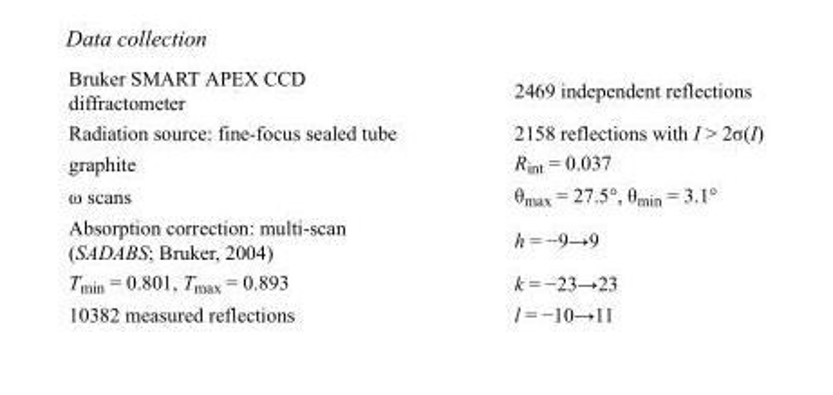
<table><tbody><tr><td>Bruker SMART APEX CCD diffractometer</td><td>2469 independent reflections</td></tr><tr><td>Radiation source: fine-focus sealed tube</td><td>2158 reflections with I &gt; 2σ(I)</td></tr><tr><td>graphite</td><td>R<sub>int</sub> = 0.037</td></tr><tr><td>ω scans</td><td>θ<sub>max</sub> = 27.5°, θ<sub>min</sub> = 3.1°</td></tr><tr><td>Absorption correction: multi-scan (SADABS; Bruker, 2004)</td><td>h = −9→9</td></tr><tr><td>T<sub>min</sub> = 0.801, T<sub>max</sub> = 0.893</td><td>k = −23→23</td></tr><tr><td>10382 measured reflections</td><td>l = −10→11</td></tr></tbody></table>